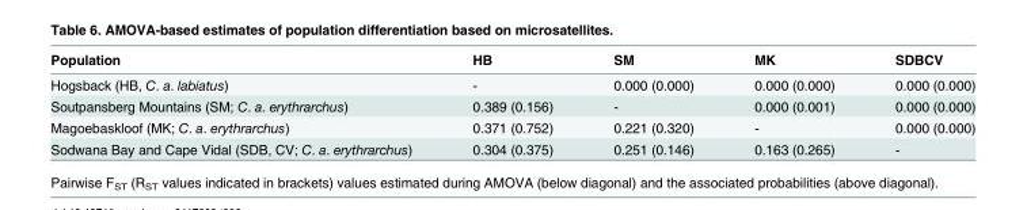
<table><thead><tr><td>Population</td><td>HB</td><td>SM</td><td>MK</td><td>SDBCV</td></tr></thead><tbody><tr><td>Hogsback (HB, C. a. labiatus)</td><td>-</td><td>0.000 (0.000)</td><td>0.000 (0.000)</td><td>0.000 (0.000)</td></tr><tr><td>Soutpansberg Mountains (SM; C. a. erythrarchus)</td><td>0.389 (0.156)</td><td>-</td><td>0.000 (0.001)</td><td>0.000 (0.000)</td></tr><tr><td>Magoebaskloof (MK; C. a. erythrarchus)</td><td>0.371 (0.752)</td><td>0.221 (0.320)</td><td>-</td><td>0.000 (0.000)</td></tr><tr><td>Sodwana Bay and Cape Vidal (SDB, CV; C. a. erythrarchus)</td><td>0.304 (0.375)</td><td>0.251 (0.146)</td><td>0.163 (0.265)</td><td>-</td></tr></tbody></table>